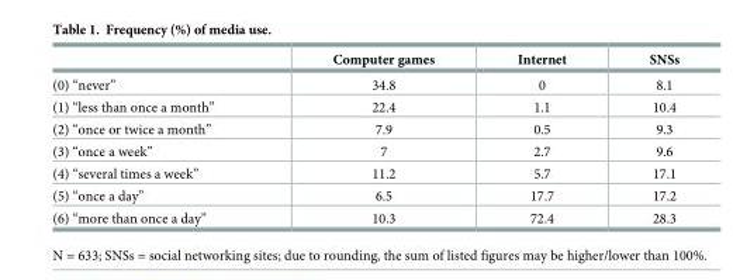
<table><thead><tr><td></td><td>Computer games</td><td>Internet</td><td>SNSs</td></tr></thead><tbody><tr><td>(0) “never”</td><td>34.8</td><td>0</td><td>8.1</td></tr><tr><td>(1) “less than once a month”</td><td>22.4</td><td>1.1</td><td>10.4</td></tr><tr><td>(2) “once or twice a month”</td><td>7.9</td><td>0.5</td><td>9.3</td></tr><tr><td>(3) “once a week”</td><td>7</td><td>2.7</td><td>9.6</td></tr><tr><td>(4) “several times a week”</td><td>11.2</td><td>5.7</td><td>17.1</td></tr><tr><td>(5) “once a day”</td><td>6.5</td><td>17.7</td><td>17.2</td></tr><tr><td>(6) “more than once a day”</td><td>10.3</td><td>72.4</td><td>28.3</td></tr></tbody></table>